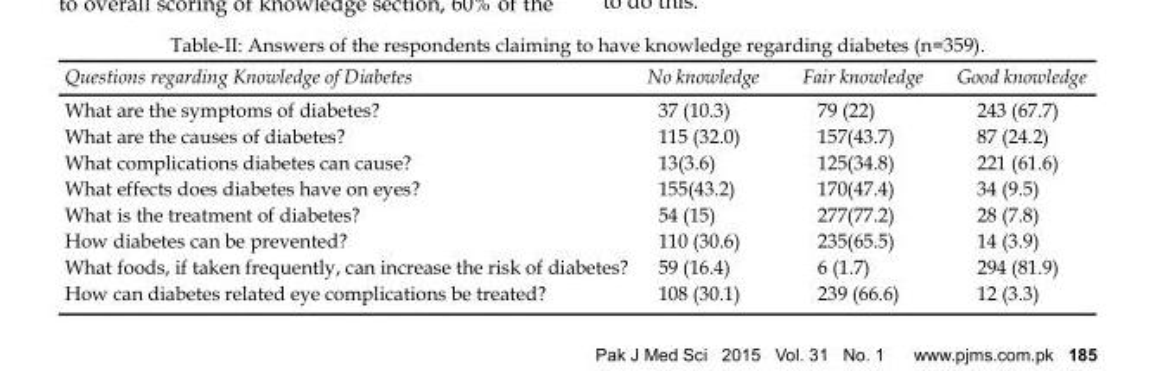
<table><thead><tr><td>Questions regarding Knowledge of Diabetes</td><td>No knowledge</td><td>Fair knowledge</td><td>Good knowledge</td></tr></thead><tbody><tr><td>What are the symptoms of diabetes?</td><td>37 (10.3)</td><td>79 (22)</td><td>243 (67.7)</td></tr><tr><td>What are the causes of diabetes?</td><td>115 (32.0)</td><td>157(43.7)</td><td>87 (24.2)</td></tr><tr><td>What complications diabetes can cause?</td><td>13(3.6)</td><td>125(34.8)</td><td>221 (61.6)</td></tr><tr><td>What effects does diabetes have on eyes?</td><td>155(43.2)</td><td>170(47.4)</td><td>34 (9.5)</td></tr><tr><td>What is the treatment of diabetes?</td><td>54 (15)</td><td>277(77.2)</td><td>28 (7.8)</td></tr><tr><td>How diabetes can be prevented?</td><td>110 (30.6)</td><td>235(65.5)</td><td>14 (3.9)</td></tr><tr><td>What foods, if taken frequently, can increase the risk of diabetes?</td><td>59 (16.4)</td><td>6 (1.7)</td><td>294 (81.9)</td></tr><tr><td>How can diabetes related eye complications be treated?</td><td>108 (30.1)</td><td>239 (66.6)</td><td>12 (3.3)</td></tr></tbody></table>